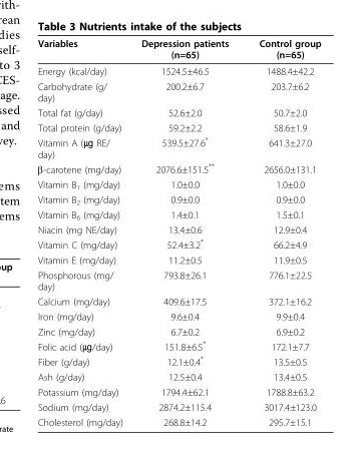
<table><thead><tr><td>Variables</td><td>Depression patients (n=65)</td><td>Control group (n=65)</td></tr></thead><tbody><tr><td>Energy (kcal/day)</td><td>1524.5±46.5</td><td>1488.4±42.2</td></tr><tr><td>Carbohydrate (g/ day)</td><td>200.2±6.7</td><td>203.7±6.2</td></tr><tr><td>Total fat (g/day)</td><td>52.6±2.0</td><td>50.7±2.0</td></tr><tr><td>Total protein (g/day)</td><td>59.2±2.2</td><td>58.6±1.9</td></tr><tr><td>Vitamin A (㎍ RE/ day)</td><td>539.5±27.6*</td><td>641.3±27.0</td></tr><tr><td>β-carotene (mg/day)</td><td>2076.6±151.5**</td><td>2656.0±131.1</td></tr><tr><td>Vitamin B<sub>1</sub> (mg/day)</td><td>1.0±0.0</td><td>1.0±0.0</td></tr><tr><td>Vitamin B<sub>2</sub> (mg/day)</td><td>0.9±0.0</td><td>0.9±0.0</td></tr><tr><td>Vitamin B<sub>6</sub> (mg/day)</td><td>1.4±0.1</td><td>1.5±0.1</td></tr><tr><td>Niacin (mg NE/day)</td><td>13.4±0.6</td><td>12.9±0.4</td></tr><tr><td>Vitamin C (mg/day)</td><td>52.4±3.2*</td><td>66.2±4.9</td></tr><tr><td>Vitamin E (mg/day)</td><td>11.2±0.5</td><td>11.9±0.5</td></tr><tr><td>Phosphorous (mg/ day)</td><td>793.8±26.1</td><td>776.1±22.5</td></tr><tr><td>Calcium (mg/day)</td><td>409.6±17.5</td><td>372.1±16.2</td></tr><tr><td>Iron (mg/day)</td><td>9.6±0.4</td><td>9.9±0.4</td></tr><tr><td>Zinc (mg/day)</td><td>6.7±0.2</td><td>6.9±0.2</td></tr><tr><td>Folic acid (㎍/day)</td><td>151.8±6.5*</td><td>172.1±7.7</td></tr><tr><td>Fiber (g/day)</td><td>12.1±0.4*</td><td>13.5±0.5</td></tr><tr><td>Ash (g/day)</td><td>12.5±0.4</td><td>13.4±0.5</td></tr><tr><td>Potassium (mg/day)</td><td>1794.4±62.1</td><td>1788.8±63.2</td></tr><tr><td>Sodium (mg/day)</td><td>2874.2±115.4</td><td>3017.4±123.0</td></tr><tr><td>Cholesterol (mg/day)</td><td>268.8±14.2</td><td>295.7±15.1</td></tr></tbody></table>